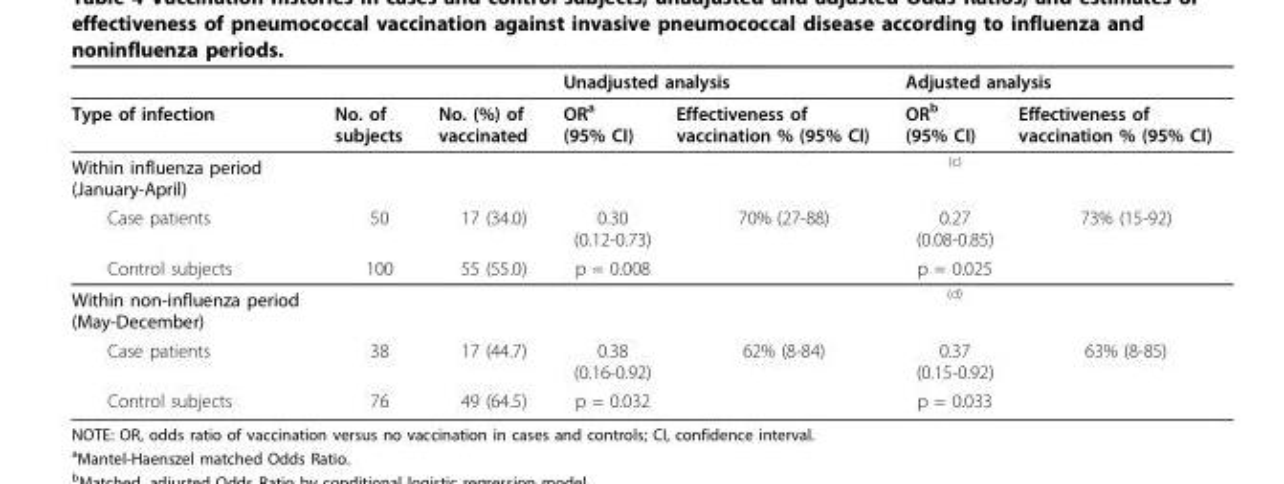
<table><thead><tr><td rowspan="2">Type of infection</td><td rowspan="2">No. of subjects</td><td rowspan="2">No. (%) of vaccinated</td><td colspan="2">Unadjusted analysis</td><td colspan="2">Adjusted analysis</td></tr><tr><td>OR<sup>a</sup> (95% CI)</td><td>Effectiveness of vaccination % (95% CI)</td><td>OR<sup>b</sup> (95% CI)</td><td>Effectiveness of vaccination % (95% CI)</td></tr></thead><tbody><tr><td>Within influenza period (January-April)</td><td></td><td></td><td></td><td></td><td><sup>(c)</sup></td><td></td></tr><tr><td>Case patients</td><td>50</td><td>17 (34.0)</td><td>0.30 (0.12-0.73)</td><td>70% (27-88)</td><td>0.27 (0.08-0.85)</td><td>73% (15-92)</td></tr><tr><td>Control subjects</td><td>100</td><td>55 (55.0)</td><td>p = 0.008</td><td></td><td>p = 0.025</td><td></td></tr><tr><td>Within non-influenza period (May-December)</td><td></td><td></td><td></td><td></td><td><sup>(d)</sup></td><td></td></tr><tr><td>Case patients</td><td>38</td><td>17 (44.7)</td><td>0.38 (0.16-0.92)</td><td>62% (8-84)</td><td>0.37 (0.15-0.92)</td><td>63% (8-85)</td></tr><tr><td>Control subjects</td><td>76</td><td>49 (64.5)</td><td>p = 0.032</td><td></td><td>p = 0.033</td><td></td></tr></tbody></table>